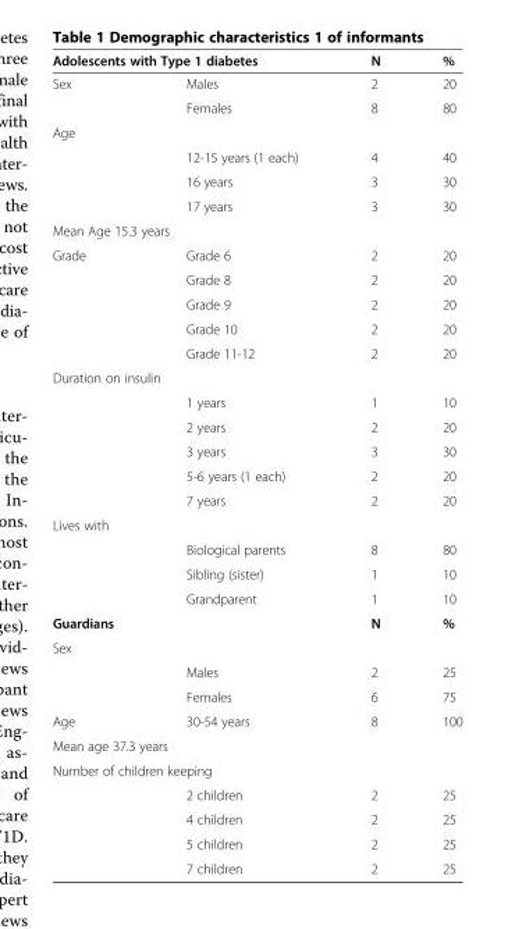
<table><thead><tr><td colspan="2">Adolescents with Type 1 diabetes</td><td rowspan="2">N 2</td><td rowspan="2">% 20</td></tr><tr><td>Sex</td><td>Males</td></tr></thead><tbody><tr><td></td><td>Females</td><td>8</td><td>80</td></tr><tr><td colspan="4">Age</td></tr><tr><td></td><td>12-15 years (1 each)</td><td>4</td><td>40</td></tr><tr><td></td><td>16 years</td><td>3</td><td>30</td></tr><tr><td></td><td>17 years</td><td>3</td><td>30</td></tr><tr><td colspan="4">Mean Age 15.3 years</td></tr><tr><td rowspan="5">Grade</td><td>Grade 6</td><td>2</td><td>20</td></tr><tr><td>Grade 8</td><td>2</td><td>20</td></tr><tr><td>Grade 9</td><td>2</td><td>20</td></tr><tr><td>Grade 10</td><td>2</td><td>20</td></tr><tr><td>Grade 11-12</td><td>2</td><td>20</td></tr><tr><td colspan="4">Duration on insulin</td></tr><tr><td></td><td>1 years</td><td>1</td><td>10</td></tr><tr><td></td><td>2 years</td><td>2</td><td>20</td></tr><tr><td></td><td>3 years</td><td>3</td><td>30</td></tr><tr><td></td><td>5-6 years (1 each)</td><td>2</td><td>20</td></tr><tr><td></td><td>7 years</td><td>2</td><td>20</td></tr><tr><td colspan="4">Lives with</td></tr><tr><td></td><td>Biological parents</td><td>8</td><td>80</td></tr><tr><td></td><td>Sibling (sister)</td><td>1</td><td>10</td></tr><tr><td></td><td>Grandparent</td><td>1</td><td>10</td></tr><tr><td>Guardians</td><td></td><td>N</td><td>%</td></tr><tr><td colspan="4">Sex</td></tr><tr><td></td><td>Males</td><td>2</td><td>25</td></tr><tr><td></td><td>Females</td><td>6</td><td>75</td></tr><tr><td>Age</td><td>30-54 years</td><td>8</td><td>100</td></tr><tr><td colspan="4">Mean age 37.3 years</td></tr><tr><td colspan="4">Number of children keeping</td></tr><tr><td></td><td>2 children</td><td>2</td><td>25</td></tr><tr><td></td><td>4 children</td><td>2</td><td>25</td></tr><tr><td></td><td>5 children</td><td>2</td><td>25</td></tr><tr><td></td><td>7 children</td><td>2</td><td>25</td></tr></tbody></table>